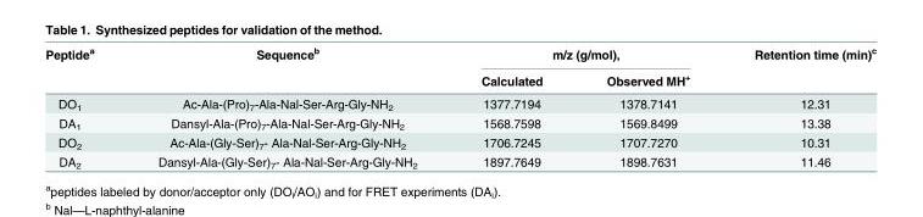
<table><thead><tr><td rowspan="2">Peptide<sup>a</sup></td><td rowspan="2">Sequence<sup>b</sup></td><td colspan="2">m/z (g/mol),</td><td rowspan="2">Retention time (min)<sup>c</sup></td></tr><tr><td>Calculated</td><td>Observed MH<sup>+</sup></td></tr></thead><tbody><tr><td>DO<sub>1</sub></td><td>Ac-Ala-(Pro)<sub>7</sub>-Ala-Nal-Ser-Arg-Gly-NH<sub>2</sub></td><td>1377.7194</td><td>1378.7141</td><td>12.31</td></tr><tr><td>DA<sub>1</sub></td><td>Dansyl-Ala-(Pro)<sub>7</sub>-Ala-Nal-Ser-Arg-Gly-NH<sub>2</sub></td><td>1568.7598</td><td>1569.8499</td><td>13.38</td></tr><tr><td>DO<sub>2</sub></td><td>Ac-Ala-(Gly-Ser)<sub>7</sub>- Ala-Nal-Ser-Arg-Gly-NH<sub>2</sub></td><td>1706.7245</td><td>1707.7270</td><td>10.31</td></tr><tr><td>DA<sub>2</sub></td><td>Dansyl-Ala-(Gly-Ser)<sub>7</sub>- Ala-Nal-Ser-Arg-Gly-NH<sub>2</sub></td><td>1897.7649</td><td>1898.7631</td><td>11.46</td></tr></tbody></table>